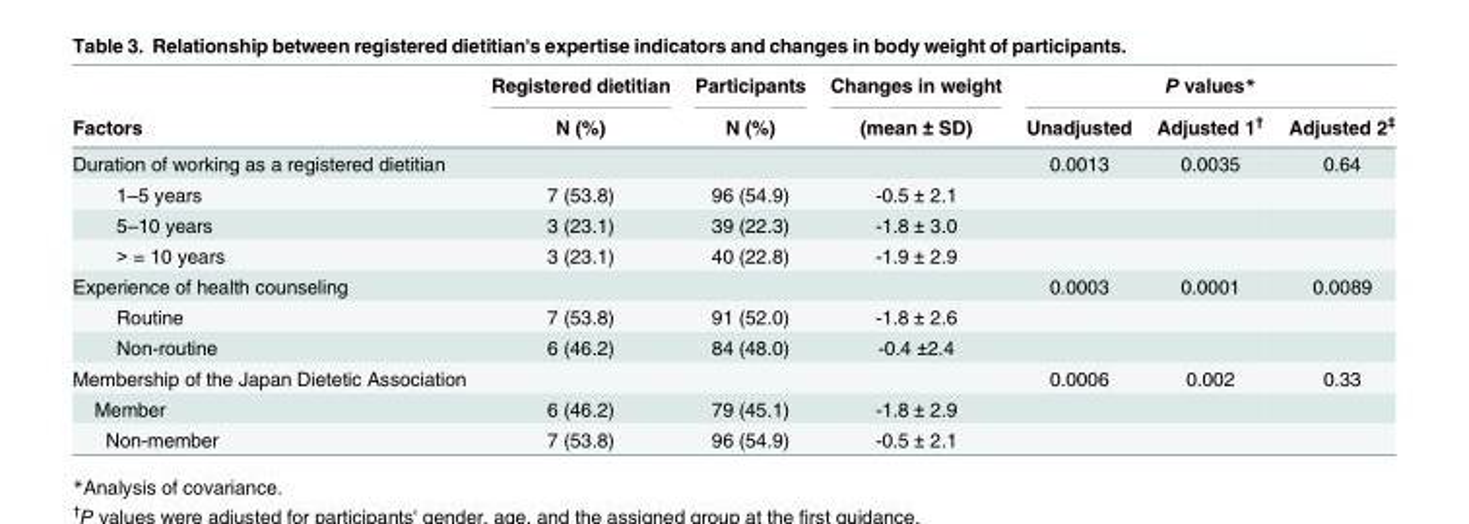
<table><thead><tr><td rowspan="2">Factors</td><td rowspan="2">Registered dietitian N (%)</td><td rowspan="2">Participants N (%)</td><td rowspan="2">Changes in weight (mean ± SD)</td><td colspan="3">P values*</td></tr><tr><td>Unadjusted</td><td>Adjusted 1<sup>†</sup></td><td>Adjusted 2<sup>‡</sup></td></tr></thead><tbody><tr><td>Duration of working as a registered dietitian</td><td></td><td></td><td></td><td>0.0013</td><td>0.0035</td><td>0.64</td></tr><tr><td>1–5 years</td><td>7 (53.8)</td><td>96 (54.9)</td><td>-0.5 ± 2.1</td><td></td><td></td><td></td></tr><tr><td>5–10 years</td><td>3 (23.1)</td><td>39 (22.3)</td><td>-1.8 ± 3.0</td><td></td><td></td><td></td></tr><tr><td>&gt; = 10 years</td><td>3 (23.1)</td><td>40 (22.8)</td><td>-1.9 ± 2.9</td><td></td><td></td><td></td></tr><tr><td>Experience of health counseling</td><td></td><td></td><td></td><td>0.0003</td><td>0.0001</td><td>0.0089</td></tr><tr><td>Routine</td><td>7 (53.8)</td><td>91 (52.0)</td><td>-1.8 ± 2.6</td><td></td><td></td><td></td></tr><tr><td>Non-routine</td><td>6 (46.2)</td><td>84 (48.0)</td><td>-0.4 ±2.4</td><td></td><td></td><td></td></tr><tr><td>Membership of the Japan Dietetic Association</td><td></td><td></td><td></td><td>0.0006</td><td>0.002</td><td>0.33</td></tr><tr><td>Member</td><td>6 (46.2)</td><td>79 (45.1)</td><td>-1.8 ± 2.9</td><td></td><td></td><td></td></tr><tr><td>Non-member</td><td>7 (53.8)</td><td>96 (54.9)</td><td>-0.5 ± 2.1</td><td></td><td></td><td></td></tr></tbody></table>